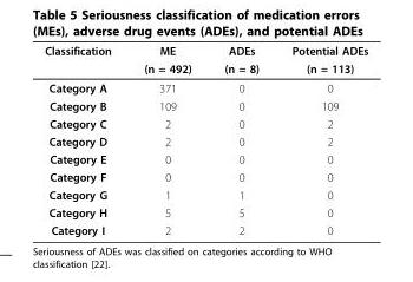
<table><thead><tr><td rowspan="2">Classification</td><td rowspan="2">ME (n = 492)</td><td rowspan="2">ADEs (n = 8)</td><td rowspan="2">Potential ADEs (n = 113)</td></tr><tr></tr></thead><tbody><tr><td>Category A</td><td>371</td><td>0</td><td>0</td></tr><tr><td>Category B</td><td>109</td><td>0</td><td>109</td></tr><tr><td>Category C</td><td>2</td><td>0</td><td>2</td></tr><tr><td>Category D</td><td>2</td><td>0</td><td>2</td></tr><tr><td>Category E</td><td>0</td><td>0</td><td>0</td></tr><tr><td>Category F</td><td>0</td><td>0</td><td>0</td></tr><tr><td>Category G</td><td>1</td><td>1</td><td>0</td></tr><tr><td>Category H</td><td>5</td><td>5</td><td>0</td></tr><tr><td>Category I</td><td>2</td><td>2</td><td>0</td></tr></tbody></table>